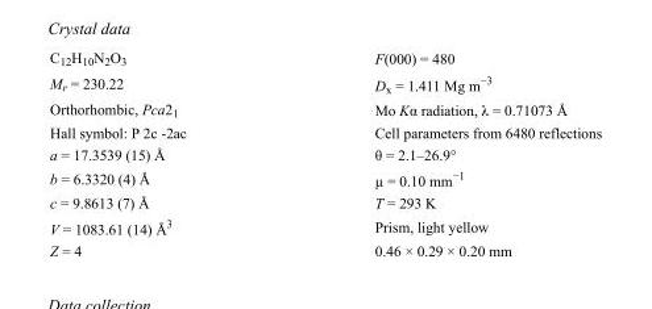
<table><tbody><tr><td>C<sub>12</sub>H<sub>10</sub>N<sub>2</sub>O<sub>3</sub></td><td>F(000) = 480</td></tr><tr><td>M<sub>r</sub> = 230.22</td><td>D<sub>x</sub> = 1.411 Mg m<sup>−3</sup></td></tr><tr><td>Orthorhombic, Pca2<sub>1</sub></td><td>Mo Kα radiation, λ = 0.71073 Å</td></tr><tr><td>Hall symbol: P 2c -2ac</td><td>Cell parameters from 6480 reflections</td></tr><tr><td>a = 17.3539 (15) Å</td><td>θ = 2.1–26.9°</td></tr><tr><td>b = 6.3320 (4) Å</td><td>µ = 0.10 mm<sup>−1</sup></td></tr><tr><td>c = 9.8613 (7) Å</td><td>T = 293 K</td></tr><tr><td>V = 1083.61 (14) Å<sup>3</sup></td><td>Prism, light yellow</td></tr><tr><td>Z = 4</td><td>0.46 × 0.29 × 0.20 mm</td></tr></tbody></table>